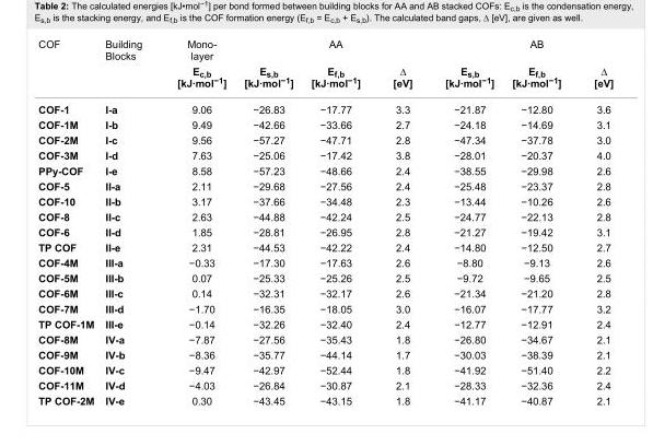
<table><tbody><tr><td rowspan="2">COF</td><td rowspan="2">Building Blocks</td><td>Mono- layer</td><td colspan="3">AA</td><td colspan="3">AB</td></tr><tr><td>E<sub>c,b</sub> [kJ·mol<sup>−1</sup>]</td><td>E<sub>s,b</sub> [kJ·mol<sup>−1</sup>]</td><td>E<sub>f,b</sub> [kJ·mol<sup>−1</sup>]</td><td>∆ [eV]</td><td>E<sub>s,b</sub> [kJ·mol<sup>−1</sup>]</td><td>E<sub>f,b</sub> [kJ·mol<sup>−1</sup>]</td><td>∆ [eV]</td></tr><tr><td>COF-1</td><td>I-a</td><td>9.06</td><td>−26.83</td><td>−17.77</td><td>3.3</td><td>−21.87</td><td>−12.80</td><td>3.6</td></tr><tr><td>COF-1M</td><td>I-b</td><td>9.49</td><td>−42.66</td><td>−33.66</td><td>2.7</td><td>−24.18</td><td>−14.69</td><td>3.1</td></tr><tr><td>COF-2M</td><td>I-c</td><td>9.56</td><td>−57.27</td><td>−47.71</td><td>2.8</td><td>−47.34</td><td>−37.78</td><td>3.0</td></tr><tr><td>COF-3M</td><td>I-d</td><td>7.63</td><td>−25.06</td><td>−17.42</td><td>3.8</td><td>−28.01</td><td>−20.37</td><td>4.0</td></tr><tr><td>PPy-COF</td><td>I-e</td><td>8.58</td><td>−57.23</td><td>−48.66</td><td>2.4</td><td>−38.55</td><td>−29.98</td><td>2.6</td></tr><tr><td>COF-5</td><td>II-a</td><td>2.11</td><td>−29.68</td><td>−27.56</td><td>2.4</td><td>−25.48</td><td>−23.37</td><td>2.8</td></tr><tr><td>COF-10</td><td>II-b</td><td>3.17</td><td>−37.66</td><td>−34.48</td><td>2.3</td><td>−13.44</td><td>−10.26</td><td>2.6</td></tr><tr><td>COF-8</td><td>II-c</td><td>2.63</td><td>−44.88</td><td>−42.24</td><td>2.5</td><td>−24.77</td><td>−22.13</td><td>2.8</td></tr><tr><td>COF-6</td><td>II-d</td><td>1.85</td><td>−28.81</td><td>−26.95</td><td>2.8</td><td>−21.27</td><td>−19.42</td><td>3.1</td></tr><tr><td>TP COF</td><td>II-e</td><td>2.31</td><td>−44.53</td><td>−42.22</td><td>2.4</td><td>−14.80</td><td>−12.50</td><td>2.7</td></tr><tr><td>COF-4M</td><td>III-a</td><td>−0.33</td><td>−17.30</td><td>−17.63</td><td>2.6</td><td>−8.80</td><td>−9.13</td><td>2.6</td></tr><tr><td>COF-5M</td><td>III-b</td><td>0.07</td><td>−25.33</td><td>−25.26</td><td>2.5</td><td>−9.72</td><td>−9.65</td><td>2.5</td></tr><tr><td>COF-6M</td><td>III-c</td><td>0.14</td><td>−32.31</td><td>−32.17</td><td>2.6</td><td>−21.34</td><td>−21.20</td><td>2.8</td></tr><tr><td>COF-7M</td><td>III-d</td><td>−1.70</td><td>−16.35</td><td>−18.05</td><td>3.0</td><td>−16.07</td><td>−17.77</td><td>3.2</td></tr><tr><td>TP COF-1M</td><td>III-e</td><td>−0.14</td><td>−32.26</td><td>−32.40</td><td>2.4</td><td>−12.77</td><td>−12.91</td><td>2.4</td></tr><tr><td>COF-8M</td><td>IV-a</td><td>−7.87</td><td>−27.56</td><td>−35.43</td><td>1.8</td><td>−26.80</td><td>−34.67</td><td>2.1</td></tr><tr><td>COF-9M</td><td>IV-b</td><td>−8.36</td><td>−35.77</td><td>−44.14</td><td>1.7</td><td>−30.03</td><td>−38.39</td><td>2.1</td></tr><tr><td>COF-10M</td><td>IV-c</td><td>−9.47</td><td>−42.97</td><td>−52.44</td><td>1.8</td><td>−41.92</td><td>−51.40</td><td>2.2</td></tr><tr><td>COF-11M</td><td>IV-d</td><td>−4.03</td><td>−26.84</td><td>−30.87</td><td>2.1</td><td>−28.33</td><td>−32.36</td><td>2.4</td></tr><tr><td>TP COF-2M</td><td>IV-e</td><td>0.30</td><td>−43.45</td><td>−43.15</td><td>1.8</td><td>−41.17</td><td>−40.87</td><td>2.1</td></tr></tbody></table>